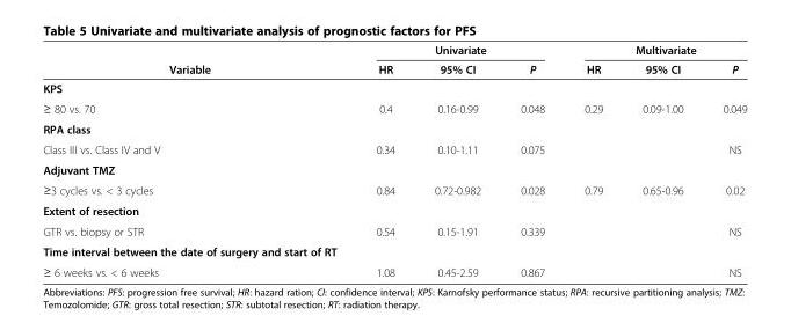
<table><thead><tr><td rowspan="2">Variable</td><td colspan="3">Univariate</td><td colspan="3">Multivariate</td></tr><tr><td>HR</td><td>95% CI</td><td>P</td><td>HR</td><td>95% CI</td><td>P</td></tr></thead><tbody><tr><td colspan="7">KPS</td></tr><tr><td>≥ 80 vs. 70</td><td>0.4</td><td>0.16-0.99</td><td>0.048</td><td>0.29</td><td>0.09-1.00</td><td>0.049</td></tr><tr><td colspan="7">RPA class</td></tr><tr><td>Class III vs. Class IV and V</td><td>0.34</td><td>0.10-1.11</td><td>0.075</td><td></td><td></td><td>NS</td></tr><tr><td colspan="7">Adjuvant TMZ</td></tr><tr><td>≥3 cycles vs. &lt; 3 cycles</td><td>0.84</td><td>0.72-0.982</td><td>0.028</td><td>0.79</td><td>0.65-0.96</td><td>0.02</td></tr><tr><td colspan="7">Extent of resection</td></tr><tr><td>GTR vs. biopsy or STR</td><td>0.54</td><td>0.15-1.91</td><td>0.339</td><td></td><td></td><td>NS</td></tr><tr><td colspan="7">Time interval between the date of surgery and start of RT</td></tr><tr><td>≥ 6 weeks vs. &lt; 6 weeks</td><td>1.08</td><td>0.45-2.59</td><td>0.867</td><td></td><td></td><td>NS</td></tr></tbody></table>